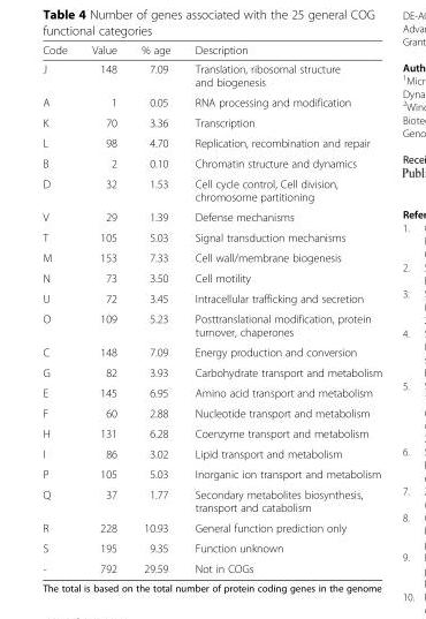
<table><thead><tr><td>Code</td><td>Value</td><td>% age</td><td>Description</td></tr></thead><tbody><tr><td>J</td><td>148</td><td>7.09</td><td>Translation, ribosomal structure and biogenesis</td></tr><tr><td>A</td><td>1</td><td>0.05</td><td>RNA processing and modification</td></tr><tr><td>K</td><td>70</td><td>3.36</td><td>Transcription</td></tr><tr><td>L</td><td>98</td><td>4.70</td><td>Replication, recombination and repair</td></tr><tr><td>B</td><td>2</td><td>0.10</td><td>Chromatin structure and dynamics</td></tr><tr><td>D</td><td>32</td><td>1.53</td><td>Cell cycle control, Cell division, chromosome partitioning</td></tr><tr><td>V</td><td>29</td><td>1.39</td><td>Defense mechanisms</td></tr><tr><td>T</td><td>105</td><td>5.03</td><td>Signal transduction mechanisms</td></tr><tr><td>M</td><td>153</td><td>7.33</td><td>Cell wall/membrane biogenesis</td></tr><tr><td>N</td><td>73</td><td>3.50</td><td>Cell motility</td></tr><tr><td>U</td><td>72</td><td>3.45</td><td>Intracellular trafficking and secretion</td></tr><tr><td>O</td><td>109</td><td>5.23</td><td>Posttranslational modification, protein turnover, chaperones</td></tr><tr><td>C</td><td>148</td><td>7.09</td><td>Energy production and conversion</td></tr><tr><td>G</td><td>82</td><td>3.93</td><td>Carbohydrate transport and metabolism</td></tr><tr><td>E</td><td>145</td><td>6.95</td><td>Amino acid transport and metabolism</td></tr><tr><td>F</td><td>60</td><td>2.88</td><td>Nucleotide transport and metabolism</td></tr><tr><td>H</td><td>131</td><td>6.28</td><td>Coenzyme transport and metabolism</td></tr><tr><td>I</td><td>86</td><td>3.02</td><td>Lipid transport and metabolism</td></tr><tr><td>P</td><td>105</td><td>5.03</td><td>Inorganic ion transport and metabolism</td></tr><tr><td>Q</td><td>37</td><td>1.77</td><td>Secondary metabolites biosynthesis, transport and catabolism</td></tr><tr><td>R</td><td>228</td><td>10.93</td><td>General function prediction only</td></tr><tr><td>S</td><td>195</td><td>9.35</td><td>Function unknown</td></tr><tr><td>-</td><td>792</td><td>29.59</td><td>Not in COGs</td></tr></tbody></table>